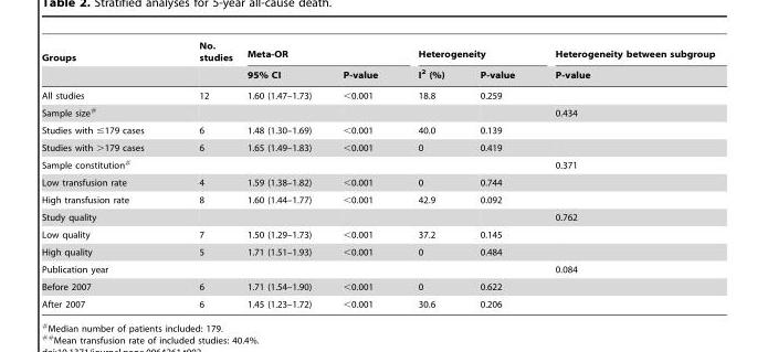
<table><thead><tr><td rowspan="2">Groups</td><td rowspan="2">No. studies</td><td colspan="2">Meta-OR</td><td colspan="2">Heterogeneity</td><td rowspan="2">Heterogeneity between subgroup P-value</td></tr><tr><td>95% CI</td><td>P-value</td><td>I<sup>2</sup> (%)</td><td>P-value</td></tr></thead><tbody><tr><td>All studies</td><td>12</td><td>1.60 (1.47–1.73)</td><td>&lt;0.001</td><td>18.8</td><td>0.259</td><td></td></tr><tr><td>Sample size#</td><td></td><td></td><td></td><td></td><td></td><td>0.434</td></tr><tr><td>Studies with ≤179 cases</td><td>6</td><td>1.48 (1.30–1.69)</td><td>&lt;0.001</td><td>40.0</td><td>0.139</td><td></td></tr><tr><td>Studies with &gt;179 cases</td><td>6</td><td>1.65 (1.49–1.83)</td><td>&lt;0.001</td><td>0</td><td>0.419</td><td></td></tr><tr><td>Sample constitution#</td><td></td><td></td><td></td><td></td><td></td><td>0.371</td></tr><tr><td>Low transfusion rate</td><td>4</td><td>1.59 (1.38–1.82)</td><td>&lt;0.001</td><td>0</td><td>0.744</td><td></td></tr><tr><td>High transfusion rate</td><td>8</td><td>1.60 (1.44–1.77)</td><td>&lt;0.001</td><td>42.9</td><td>0.092</td><td></td></tr><tr><td>Study quality</td><td></td><td></td><td></td><td></td><td></td><td>0.762</td></tr><tr><td>Low quality</td><td>7</td><td>1.50 (1.29–1.73)</td><td>&lt;0.001</td><td>37.2</td><td>0.145</td><td></td></tr><tr><td>High quality</td><td>5</td><td>1.71 (1.51–1.93)</td><td>&lt;0.001</td><td>0</td><td>0.484</td><td></td></tr><tr><td>Publication year</td><td></td><td></td><td></td><td></td><td></td><td>0.084</td></tr><tr><td>Before 2007</td><td>6</td><td>1.71 (1.54–1.90)</td><td>&lt;0.001</td><td>0</td><td>0.622</td><td></td></tr><tr><td>After 2007</td><td>6</td><td>1.45 (1.23–1.72)</td><td>&lt;0.001</td><td>30.6</td><td>0.206</td><td></td></tr></tbody></table>